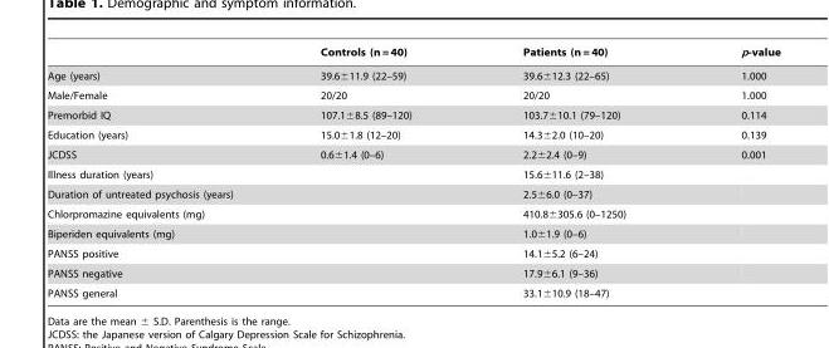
<table><thead><tr><td></td><td>Controls (n = 40)</td><td>Patients (n = 40)</td><td>p-value</td></tr></thead><tbody><tr><td>Age (years)</td><td>39.6±11.9 (22–59)</td><td>39.6±12.3 (22–65)</td><td>1.000</td></tr><tr><td>Male/Female</td><td>20/20</td><td>20/20</td><td>1.000</td></tr><tr><td>Premorbid IQ</td><td>107.1±8.5 (89–120)</td><td>103.7±10.1 (79–120)</td><td>0.114</td></tr><tr><td>Education (years)</td><td>15.0±1.8 (12–20)</td><td>14.3±2.0 (10–20)</td><td>0.139</td></tr><tr><td>JCDSS</td><td>0.6±1.4 (0–6)</td><td>2.2±2.4 (0–9)</td><td>0.001</td></tr><tr><td>Illness duration (years)</td><td></td><td>15.6±11.6 (2–38)</td><td></td></tr><tr><td>Duration of untreated psychosis (years)</td><td></td><td>2.5±6.0 (0–37)</td><td></td></tr><tr><td>Chlorpromazine equivalents (mg)</td><td></td><td>410.8±305.6 (0–1250)</td><td></td></tr><tr><td>Biperiden equivalents (mg)</td><td></td><td>1.0±1.9 (0–6)</td><td></td></tr><tr><td>PANSS positive</td><td></td><td>14.1±5.2 (6–24)</td><td></td></tr><tr><td>PANSS negative</td><td></td><td>17.9±6.1 (9–36)</td><td></td></tr><tr><td>PANSS general</td><td></td><td>33.1±10.9 (18–47)</td><td></td></tr></tbody></table>